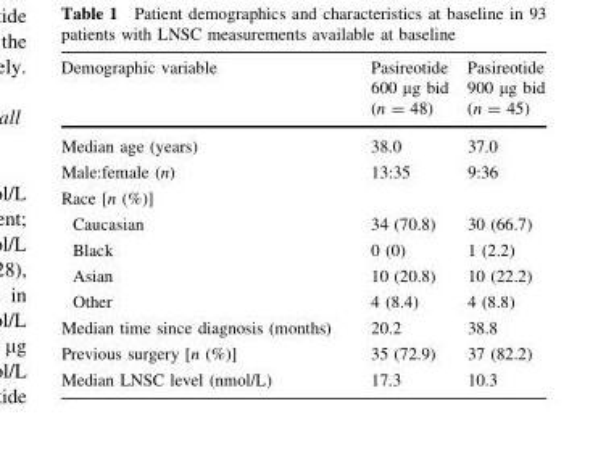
<table><thead><tr><td>Demographic variable</td><td>Pasireotide 600 µg bid (n = 48)</td><td>Pasireotide 900 µg bid (n = 45)</td></tr></thead><tbody><tr><td>Median age (years)</td><td>38.0</td><td>37.0</td></tr><tr><td>Male:female (n)</td><td>13:35</td><td>9:36</td></tr><tr><td colspan="3">Race [n (%)]</td></tr><tr><td>Caucasian</td><td>34 (70.8)</td><td>30 (66.7)</td></tr><tr><td>Black</td><td>0 (0)</td><td>1 (2.2)</td></tr><tr><td>Asian</td><td>10 (20.8)</td><td>10 (22.2)</td></tr><tr><td>Other</td><td>4 (8.4)</td><td>4 (8.8)</td></tr><tr><td>Median time since diagnosis (months)</td><td>20.2</td><td>38.8</td></tr><tr><td>Previous surgery [n (%)]</td><td>35 (72.9)</td><td>37 (82.2)</td></tr><tr><td>Median LNSC level (nmol/L)</td><td>17.3</td><td>10.3</td></tr></tbody></table>